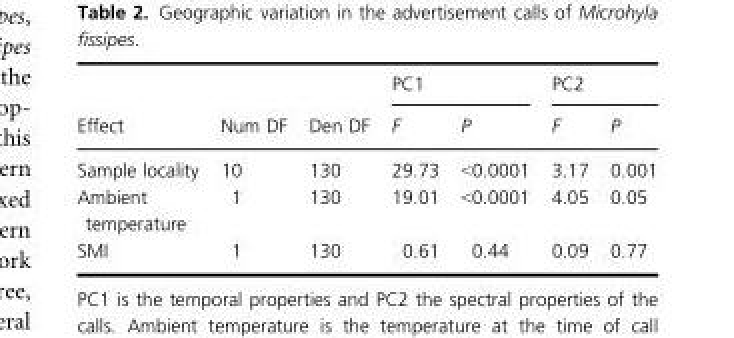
<table><thead><tr><td rowspan="2">Effect</td><td rowspan="2">Num DF</td><td rowspan="2">Den DF</td><td colspan="2">PC1</td><td colspan="2">PC2</td></tr><tr><td>F</td><td>P</td><td>F</td><td>P</td></tr></thead><tbody><tr><td>Sample locality</td><td>10</td><td>130</td><td>29.73</td><td>&lt;0.0001</td><td>3.17</td><td>0.001</td></tr><tr><td>Ambient temperature</td><td>1</td><td>130</td><td>19.01</td><td>&lt;0.0001</td><td>4.05</td><td>0.05</td></tr><tr><td>SMI</td><td>1</td><td>130</td><td>0.61</td><td>0.44</td><td>0.09</td><td>0.77</td></tr></tbody></table>